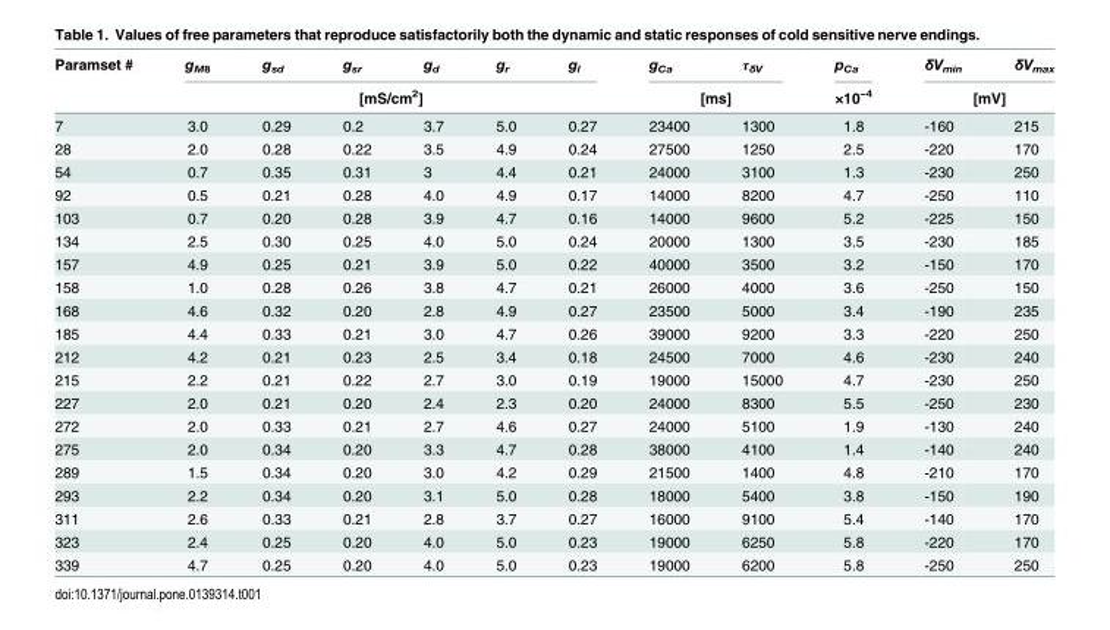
<table><thead><tr><td rowspan="2">Paramset #</td><td>g<sub>M8</sub></td><td>g<sub>sd</sub></td><td>g<sub>sr</sub></td><td>g<sub>d</sub></td><td>g<sub>r</sub></td><td>g<sub>l</sub></td><td>g<sub>Ca</sub></td><td>τ<sub>δV</sub></td><td rowspan="2">p<sub>Ca</sub> ×10<sup>−4</sup></td><td>δV<sub>min</sub></td><td>δV<sub>max</sub></td></tr><tr><td colspan="6">[mS/cm<sup>2</sup>]</td><td colspan="2">[ms]</td><td colspan="2">[mV]</td></tr></thead><tbody><tr><td>7</td><td>3.0</td><td>0.29</td><td>0.2</td><td>3.7</td><td>5.0</td><td>0.27</td><td>23400</td><td>1300</td><td>1.8</td><td>-160</td><td>215</td></tr><tr><td>28</td><td>2.0</td><td>0.28</td><td>0.22</td><td>3.5</td><td>4.9</td><td>0.24</td><td>27500</td><td>1250</td><td>2.5</td><td>-220</td><td>170</td></tr><tr><td>54</td><td>0.7</td><td>0.35</td><td>0.31</td><td>3</td><td>4.4</td><td>0.21</td><td>24000</td><td>3100</td><td>1.3</td><td>-230</td><td>250</td></tr><tr><td>92</td><td>0.5</td><td>0.21</td><td>0.28</td><td>4.0</td><td>4.9</td><td>0.17</td><td>14000</td><td>8200</td><td>4.7</td><td>-250</td><td>110</td></tr><tr><td>103</td><td>0.7</td><td>0.20</td><td>0.28</td><td>3.9</td><td>4.7</td><td>0.16</td><td>14000</td><td>9600</td><td>5.2</td><td>-225</td><td>150</td></tr><tr><td>134</td><td>2.5</td><td>0.30</td><td>0.25</td><td>4.0</td><td>5.0</td><td>0.24</td><td>20000</td><td>1300</td><td>3.5</td><td>-230</td><td>185</td></tr><tr><td>157</td><td>4.9</td><td>0.25</td><td>0.21</td><td>3.9</td><td>5.0</td><td>0.22</td><td>40000</td><td>3500</td><td>3.2</td><td>-150</td><td>170</td></tr><tr><td>158</td><td>1.0</td><td>0.28</td><td>0.26</td><td>3.8</td><td>4.7</td><td>0.21</td><td>26000</td><td>4000</td><td>3.6</td><td>-250</td><td>150</td></tr><tr><td>168</td><td>4.6</td><td>0.32</td><td>0.20</td><td>2.8</td><td>4.9</td><td>0.27</td><td>23500</td><td>5000</td><td>3.4</td><td>-190</td><td>235</td></tr><tr><td>185</td><td>4.4</td><td>0.33</td><td>0.21</td><td>3.0</td><td>4.7</td><td>0.26</td><td>39000</td><td>9200</td><td>3.3</td><td>-220</td><td>250</td></tr><tr><td>212</td><td>4.2</td><td>0.21</td><td>0.23</td><td>2.5</td><td>3.4</td><td>0.18</td><td>24500</td><td>7000</td><td>4.6</td><td>-230</td><td>240</td></tr><tr><td>215</td><td>2.2</td><td>0.21</td><td>0.22</td><td>2.7</td><td>3.0</td><td>0.19</td><td>19000</td><td>15000</td><td>4.7</td><td>-230</td><td>250</td></tr><tr><td>227</td><td>2.0</td><td>0.21</td><td>0.20</td><td>2.4</td><td>2.3</td><td>0.20</td><td>24000</td><td>8300</td><td>5.5</td><td>-250</td><td>230</td></tr><tr><td>272</td><td>2.0</td><td>0.33</td><td>0.21</td><td>2.7</td><td>4.6</td><td>0.27</td><td>24000</td><td>5100</td><td>1.9</td><td>-130</td><td>240</td></tr><tr><td>275</td><td>2.0</td><td>0.34</td><td>0.20</td><td>3.3</td><td>4.7</td><td>0.28</td><td>38000</td><td>4100</td><td>1.4</td><td>-140</td><td>240</td></tr><tr><td>289</td><td>1.5</td><td>0.34</td><td>0.20</td><td>3.0</td><td>4.2</td><td>0.29</td><td>21500</td><td>1400</td><td>4.8</td><td>-210</td><td>170</td></tr><tr><td>293</td><td>2.2</td><td>0.34</td><td>0.20</td><td>3.1</td><td>5.0</td><td>0.28</td><td>18000</td><td>5400</td><td>3.8</td><td>-150</td><td>190</td></tr><tr><td>311</td><td>2.6</td><td>0.33</td><td>0.21</td><td>2.8</td><td>3.7</td><td>0.27</td><td>16000</td><td>9100</td><td>5.4</td><td>-140</td><td>170</td></tr><tr><td>323</td><td>2.4</td><td>0.25</td><td>0.20</td><td>4.0</td><td>5.0</td><td>0.23</td><td>19000</td><td>6250</td><td>5.8</td><td>-220</td><td>170</td></tr><tr><td>339</td><td>4.7</td><td>0.25</td><td>0.20</td><td>4.0</td><td>5.0</td><td>0.23</td><td>19000</td><td>6200</td><td>5.8</td><td>-250</td><td>250</td></tr></tbody></table>